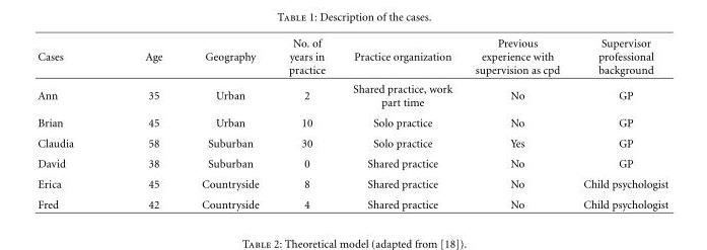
<table><thead><tr><td>Cases</td><td>Age</td><td>Geography</td><td>No. of years in practice</td><td>Practice organization</td><td>Previous experience with supervision as cpd</td><td>Supervisor professional background</td></tr></thead><tbody><tr><td>Ann</td><td>35</td><td>Urban</td><td>2</td><td>Shared practice, work part time</td><td>No</td><td>GP</td></tr><tr><td>Brian</td><td>45</td><td>Urban</td><td>10</td><td>Solo practice</td><td>No</td><td>GP</td></tr><tr><td>Claudia</td><td>58</td><td>Suburban</td><td>30</td><td>Solo practice</td><td>Yes</td><td>GP</td></tr><tr><td>David</td><td>38</td><td>Suburban</td><td>0</td><td>Shared practice</td><td>No</td><td>GP</td></tr><tr><td>Erica</td><td>45</td><td>Countryside</td><td>8</td><td>Shared practice</td><td>No</td><td>Child psychologist</td></tr><tr><td>Fred</td><td>42</td><td>Countryside</td><td>4</td><td>Shared practice</td><td>No</td><td>Child psychologist</td></tr></tbody></table>